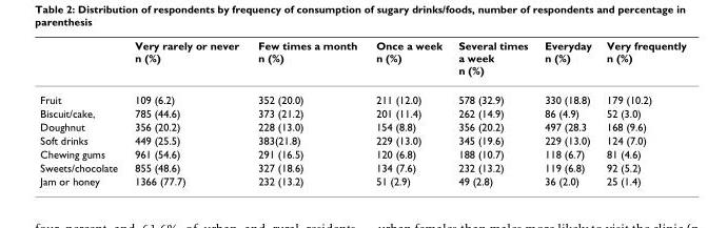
<table><thead><tr><td></td><td>Very rarely or never n (%)</td><td>Few times a month n (%)</td><td>Once a week n (%)</td><td>Several times a week n (%)</td><td>Everyday n (%)</td><td>Very frequently n (%)</td></tr></thead><tbody><tr><td>Fruit</td><td>109 (6.2)</td><td>352 (20.0)</td><td>211 (12.0)</td><td>578 (32.9)</td><td>330 (18.8)</td><td>179 (10.2)</td></tr><tr><td>Biscuit/cake,</td><td>785 (44.6)</td><td>373 (21.2)</td><td>201 (11.4)</td><td>262 (14.9)</td><td>86 (4.9)</td><td>52 (3.0)</td></tr><tr><td>Doughnut</td><td>356 (20.2)</td><td>228 (13.0)</td><td>154 (8.8)</td><td>356 (20.2)</td><td>497 (28.3</td><td>168 (9.6)</td></tr><tr><td>Soft drinks</td><td>449 (25.5)</td><td>383(21.8)</td><td>229 (13.0)</td><td>345 (19.6)</td><td>229 (13.0)</td><td>124 (7.0)</td></tr><tr><td>Chewing gums</td><td>961 (54.6)</td><td>291 (16.5)</td><td>120 (6.8)</td><td>188 (10.7)</td><td>118 (6.7)</td><td>81 (4.6)</td></tr><tr><td>Sweets/chocolate</td><td>855 (48.6)</td><td>327 (18.6)</td><td>134 (7.6)</td><td>232 (13.2)</td><td>119 (6.8)</td><td>92 (5.2)</td></tr><tr><td>Jam or honey</td><td>1366 (77.7)</td><td>232 (13.2)</td><td>51 (2.9)</td><td>49 (2.8)</td><td>36 (2.0)</td><td>25 (1.4)</td></tr></tbody></table>